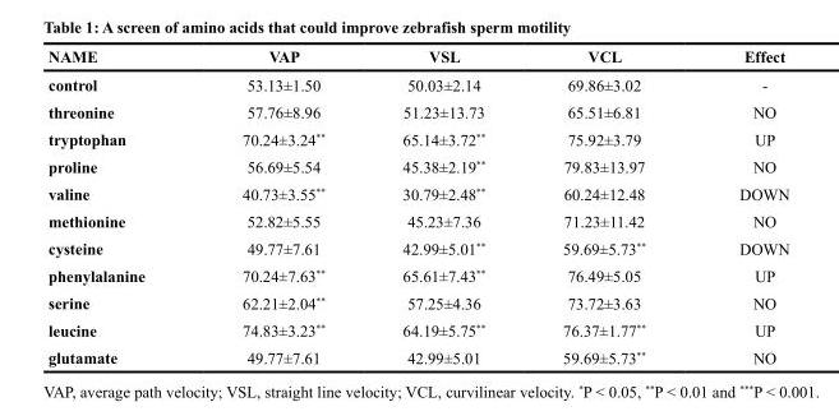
<table><thead><tr><td>NAME</td><td>VAP</td><td>VSL</td><td>VCL</td><td>Effect</td></tr></thead><tbody><tr><td>control</td><td>53.13±1.50</td><td>50.03±2.14</td><td>69.86±3.02</td><td>-</td></tr><tr><td>threonine</td><td>57.76±8.96</td><td>51.23±13.73</td><td>65.51±6.81</td><td>NO</td></tr><tr><td>tryptophan</td><td>70.24±3.24**</td><td>65.14±3.72**</td><td>75.92±3.79</td><td>UP</td></tr><tr><td>proline</td><td>56.69±5.54</td><td>45.38±2.19**</td><td>79.83±13.97</td><td>NO</td></tr><tr><td>valine</td><td>40.73±3.55**</td><td>30.79±2.48**</td><td>60.24±12.48</td><td>DOWN</td></tr><tr><td>methionine</td><td>52.82±5.55</td><td>45.23±7.36</td><td>71.23±11.42</td><td>NO</td></tr><tr><td>cysteine</td><td>49.77±7.61</td><td>42.99±5.01**</td><td>59.69±5.73**</td><td>DOWN</td></tr><tr><td>phenylalanine</td><td>70.24±7.63**</td><td>65.61±7.43**</td><td>76.49±5.05</td><td>UP</td></tr><tr><td>serine</td><td>62.21±2.04**</td><td>57.25±4.36</td><td>73.72±3.63</td><td>NO</td></tr><tr><td>leucine</td><td>74.83±3.23**</td><td>64.19±5.75**</td><td>76.37±1.77**</td><td>UP</td></tr><tr><td>glutamate</td><td>49.77±7.61</td><td>42.99±5.01</td><td>59.69±5.73**</td><td>NO</td></tr></tbody></table>